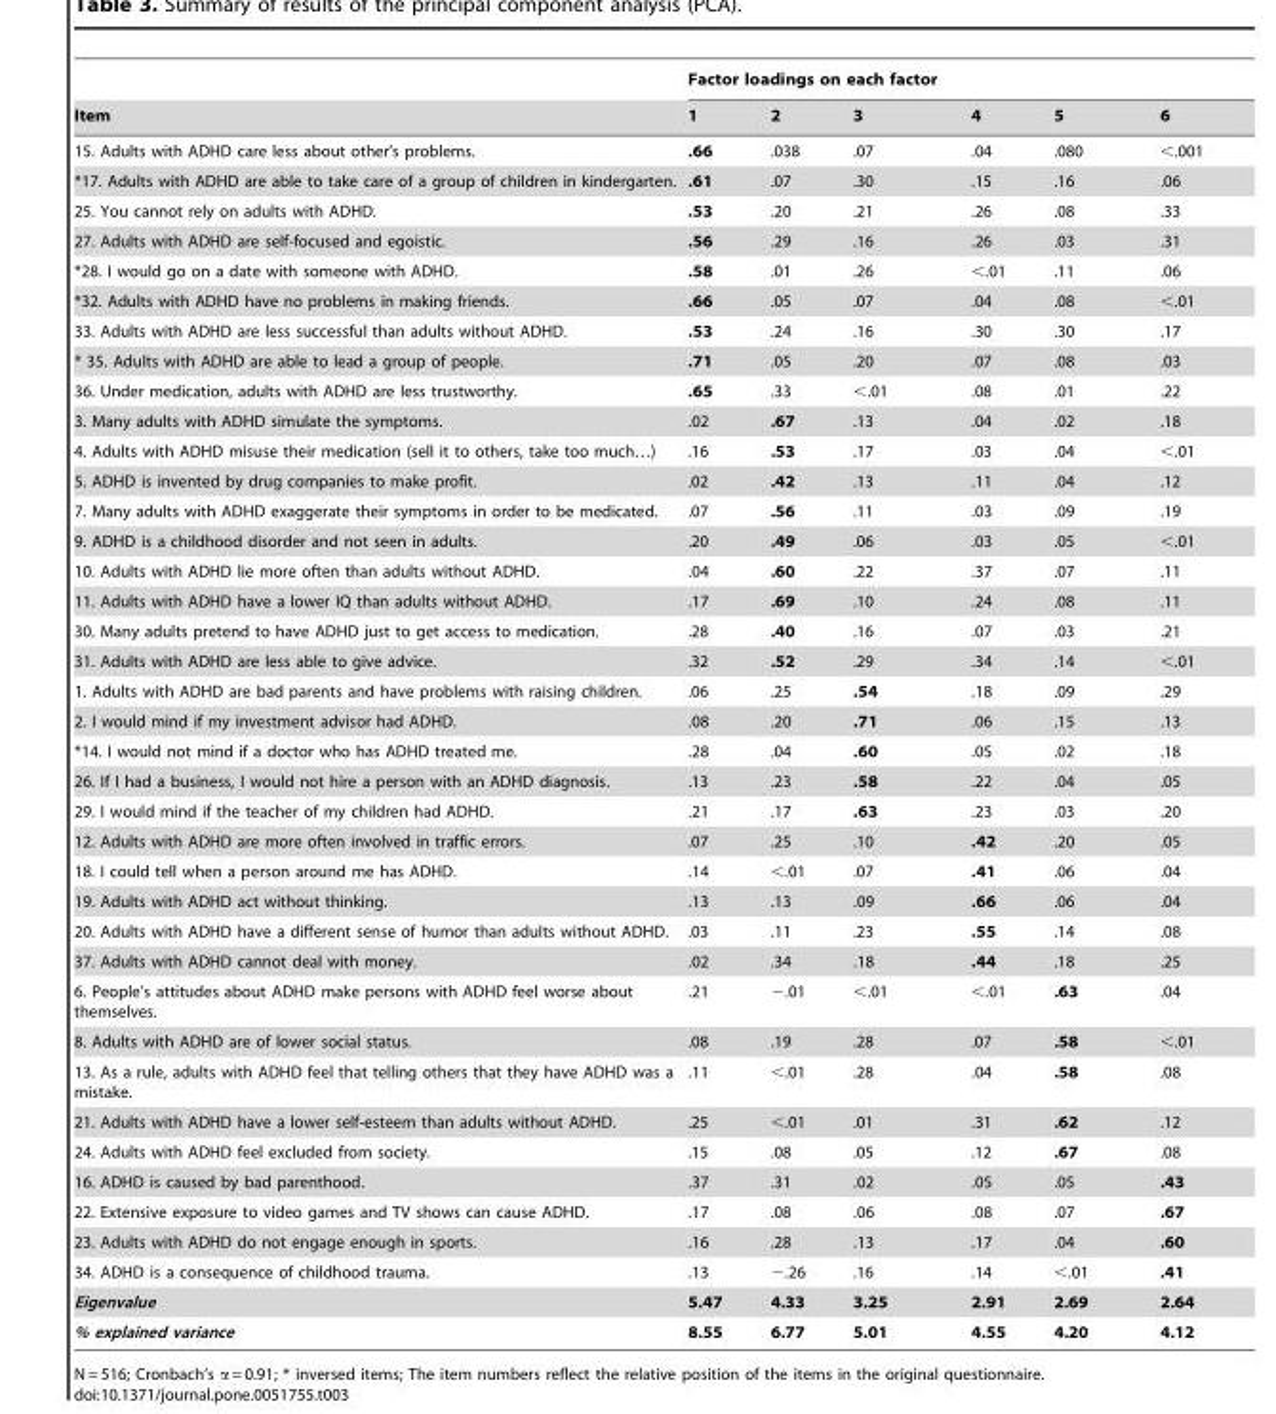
<table><thead><tr><td rowspan="2">Item</td><td colspan="6">Factor loadings on each factor</td></tr><tr><td>1</td><td>2</td><td>3</td><td>4</td><td>5</td><td>6</td></tr></thead><tbody><tr><td>15. Adults with ADHD care less about other’s problems.</td><td>.66</td><td>.038</td><td>.07</td><td>.04</td><td>.080</td><td>&lt;.001</td></tr><tr><td>*17. Adults with ADHD are able to take care of a group of children in kindergarten.</td><td>.61</td><td>.07</td><td>.30</td><td>.15</td><td>.16</td><td>.06</td></tr><tr><td>25. You cannot rely on adults with ADHD.</td><td>.53</td><td>.20</td><td>.21</td><td>.26</td><td>.08</td><td>.33</td></tr><tr><td>27. Adults with ADHD are self-focused and egoistic.</td><td>.56</td><td>.29</td><td>.16</td><td>.26</td><td>.03</td><td>.31</td></tr><tr><td>*28. I would go on a date with someone with ADHD.</td><td>.58</td><td>.01</td><td>.26</td><td>&lt;.01</td><td>.11</td><td>.06</td></tr><tr><td>*32. Adults with ADHD have no problems in making friends.</td><td>.66</td><td>.05</td><td>.07</td><td>.04</td><td>.08</td><td>&lt;.01</td></tr><tr><td>33. Adults with ADHD are less successful than adults without ADHD.</td><td>.53</td><td>.24</td><td>.16</td><td>.30</td><td>.30</td><td>.17</td></tr><tr><td>* 35. Adults with ADHD are able to lead a group of people.</td><td>.71</td><td>.05</td><td>.20</td><td>.07</td><td>.08</td><td>.03</td></tr><tr><td>36. Under medication, adults with ADHD are less trustworthy.</td><td>.65</td><td>.33</td><td>&lt;.01</td><td>.08</td><td>.01</td><td>.22</td></tr><tr><td>3. Many adults with ADHD simulate the symptoms.</td><td>.02</td><td>.67</td><td>.13</td><td>.04</td><td>.02</td><td>.18</td></tr><tr><td>4. Adults with ADHD misuse their medication (sell it to others, take too much…)</td><td>.16</td><td>.53</td><td>.17</td><td>.03</td><td>.04</td><td>&lt;.01</td></tr><tr><td>5. ADHD is invented by drug companies to make profit.</td><td>.02</td><td>.42</td><td>.13</td><td>.11</td><td>.04</td><td>.12</td></tr><tr><td>7. Many adults with ADHD exaggerate their symptoms in order to be medicated.</td><td>.07</td><td>.56</td><td>.11</td><td>.03</td><td>.09</td><td>.19</td></tr><tr><td>9. ADHD is a childhood disorder and not seen in adults.</td><td>.20</td><td>.49</td><td>.06</td><td>.03</td><td>.05</td><td>&lt;.01</td></tr><tr><td>10. Adults with ADHD lie more often than adults without ADHD.</td><td>.04</td><td>.60</td><td>.22</td><td>.37</td><td>.07</td><td>.11</td></tr><tr><td>11. Adults with ADHD have a lower IQ than adults without ADHD.</td><td>.17</td><td>.69</td><td>.10</td><td>.24</td><td>.08</td><td>.11</td></tr><tr><td>30. Many adults pretend to have ADHD just to get access to medication.</td><td>.28</td><td>.40</td><td>.16</td><td>.07</td><td>.03</td><td>.21</td></tr><tr><td>31. Adults with ADHD are less able to give advice.</td><td>.32</td><td>.52</td><td>.29</td><td>.34</td><td>.14</td><td>&lt;.01</td></tr><tr><td>1. Adults with ADHD are bad parents and have problems with raising children.</td><td>.06</td><td>.25</td><td>.54</td><td>.18</td><td>.09</td><td>.29</td></tr><tr><td>2. I would mind if my investment advisor had ADHD.</td><td>.08</td><td>.20</td><td>.71</td><td>.06</td><td>.15</td><td>.13</td></tr><tr><td>*14. I would not mind if a doctor who has ADHD treated me.</td><td>.28</td><td>.04</td><td>.60</td><td>.05</td><td>.02</td><td>.18</td></tr><tr><td>26. If I had a business, I would not hire a person with an ADHD diagnosis.</td><td>.13</td><td>.23</td><td>.58</td><td>.22</td><td>.04</td><td>.05</td></tr><tr><td>29. I would mind if the teacher of my children had ADHD.</td><td>.21</td><td>.17</td><td>.63</td><td>.23</td><td>.03</td><td>.20</td></tr><tr><td>12. Adults with ADHD are more often involved in traffic errors.</td><td>.07</td><td>.25</td><td>.10</td><td>.42</td><td>.20</td><td>.05</td></tr><tr><td>18. I could tell when a person around me has ADHD.</td><td>.14</td><td>&lt;.01</td><td>.07</td><td>.41</td><td>.06</td><td>.04</td></tr><tr><td>19. Adults with ADHD act without thinking.</td><td>.13</td><td>.13</td><td>.09</td><td>.66</td><td>.06</td><td>.04</td></tr><tr><td>20. Adults with ADHD have a different sense of humor than adults without ADHD.</td><td>.03</td><td>.11</td><td>.23</td><td>.55</td><td>.14</td><td>.08</td></tr><tr><td>37. Adults with ADHD cannot deal with money.</td><td>.02</td><td>.34</td><td>.18</td><td>.44</td><td>.18</td><td>.25</td></tr><tr><td>6. People’s attitudes about ADHD make persons with ADHD feel worse about themselves.</td><td>.21</td><td>−.01</td><td>&lt;.01</td><td>&lt;.01</td><td>.63</td><td>.04</td></tr><tr><td>8. Adults with ADHD are of lower social status.</td><td>.08</td><td>.19</td><td>.28</td><td>.07</td><td>.58</td><td>&lt;.01</td></tr><tr><td>13. As a rule, adults with ADHD feel that telling others that they have ADHD was a mistake.</td><td>.11</td><td>&lt;.01</td><td>.28</td><td>.04</td><td>.58</td><td>.08</td></tr><tr><td>21. Adults with ADHD have a lower self-esteem than adults without ADHD.</td><td>.25</td><td>&lt;.01</td><td>.01</td><td>.31</td><td>.62</td><td>.12</td></tr><tr><td>24. Adults with ADHD feel excluded from society.</td><td>.15</td><td>.08</td><td>.05</td><td>.12</td><td>.67</td><td>.08</td></tr><tr><td>16. ADHD is caused by bad parenthood.</td><td>.37</td><td>.31</td><td>.02</td><td>.05</td><td>.05</td><td>.43</td></tr><tr><td>22. Extensive exposure to video games and TV shows can cause ADHD.</td><td>.17</td><td>.08</td><td>.06</td><td>.08</td><td>.07</td><td>.67</td></tr><tr><td>23. Adults with ADHD do not engage enough in sports.</td><td>.16</td><td>.28</td><td>.13</td><td>.17</td><td>.04</td><td>.60</td></tr><tr><td>34. ADHD is a consequence of childhood trauma.</td><td>.13</td><td>−.26</td><td>.16</td><td>.14</td><td>&lt;.01</td><td>.41</td></tr><tr><td>Eigenvalue</td><td>5.47</td><td>4.33</td><td>3.25</td><td>2.91</td><td>2.69</td><td>2.64</td></tr><tr><td>% explained variance</td><td>8.55</td><td>6.77</td><td>5.01</td><td>4.55</td><td>4.20</td><td>4.12</td></tr></tbody></table>